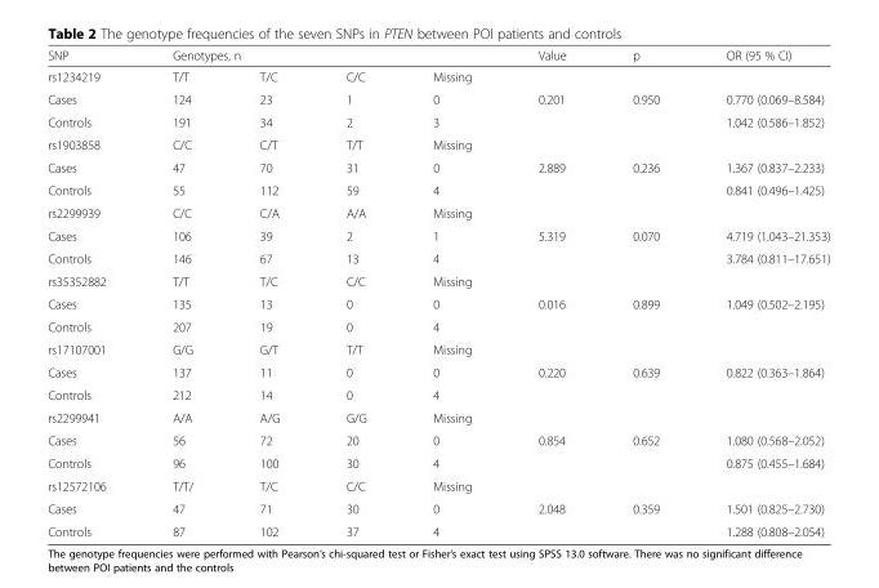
<table><thead><tr><td rowspan="2">SNP rs1234219</td><td colspan="4">Genotypes, n</td><td rowspan="2">Value</td><td rowspan="2">p</td><td rowspan="2">OR (95 % CI)</td></tr><tr><td>T/T</td><td>T/C</td><td>C/C</td><td>Missing</td></tr></thead><tbody><tr><td>Cases</td><td>124</td><td>23</td><td>1</td><td>0</td><td>0.201</td><td>0.950</td><td>0.770 (0.069–8.584)</td></tr><tr><td>Controls</td><td>191</td><td>34</td><td>2</td><td>3</td><td></td><td></td><td>1.042 (0.586–1.852)</td></tr><tr><td>rs1903858</td><td>C/C</td><td>C/T</td><td>T/T</td><td>Missing</td><td></td><td></td><td></td></tr><tr><td>Cases</td><td>47</td><td>70</td><td>31</td><td>0</td><td>2.889</td><td>0.236</td><td>1.367 (0.837–2.233)</td></tr><tr><td>Controls</td><td>55</td><td>112</td><td>59</td><td>4</td><td></td><td></td><td>0.841 (0.496–1.425)</td></tr><tr><td>rs2299939</td><td>C/C</td><td>C/A</td><td>A/A</td><td>Missing</td><td></td><td></td><td></td></tr><tr><td>Cases</td><td>106</td><td>39</td><td>2</td><td>1</td><td>5.319</td><td>0.070</td><td>4.719 (1.043–21.353)</td></tr><tr><td>Controls</td><td>146</td><td>67</td><td>13</td><td>4</td><td></td><td></td><td>3.784 (0.811–17.651)</td></tr><tr><td>rs35352882</td><td>T/T</td><td>T/C</td><td>C/C</td><td>Missing</td><td></td><td></td><td></td></tr><tr><td>Cases</td><td>135</td><td>13</td><td>0</td><td>0</td><td>0.016</td><td>0.899</td><td>1.049 (0.502–2.195)</td></tr><tr><td>Controls</td><td>207</td><td>19</td><td>0</td><td>4</td><td></td><td></td><td></td></tr><tr><td>rs17107001</td><td>G/G</td><td>G/T</td><td>T/T</td><td>Missing</td><td></td><td></td><td></td></tr><tr><td>Cases</td><td>137</td><td>11</td><td>0</td><td>0</td><td>0.220</td><td>0.639</td><td>0.822 (0.363–1.864)</td></tr><tr><td>Controls</td><td>212</td><td>14</td><td>0</td><td>4</td><td></td><td></td><td></td></tr><tr><td>rs2299941</td><td>A/A</td><td>A/G</td><td>G/G</td><td>Missing</td><td></td><td></td><td></td></tr><tr><td>Cases</td><td>56</td><td>72</td><td>20</td><td>0</td><td>0.854</td><td>0.652</td><td>1.080 (0.568–2.052)</td></tr><tr><td>Controls</td><td>96</td><td>100</td><td>30</td><td>4</td><td></td><td></td><td>0.875 (0.455–1.684)</td></tr><tr><td>rs12572106</td><td>T/T/</td><td>T/C</td><td>C/C</td><td>Missing</td><td></td><td></td><td></td></tr><tr><td>Cases</td><td>47</td><td>71</td><td>30</td><td>0</td><td>2.048</td><td>0.359</td><td>1.501 (0.825–2.730)</td></tr><tr><td>Controls</td><td>87</td><td>102</td><td>37</td><td>4</td><td></td><td></td><td>1.288 (0.808–2.054)</td></tr></tbody></table>